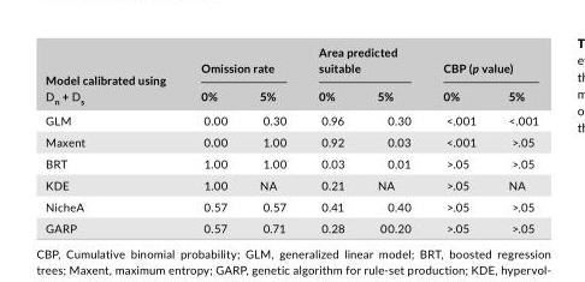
<table><thead><tr><td rowspan="2">Model calibrated using D<sub>n</sub> + D<sub>s</sub></td><td colspan="2">Omission rate</td><td colspan="2">Area predicted suitable</td><td colspan="2">CBP (p value)</td></tr><tr><td>0%</td><td>5%</td><td>0%</td><td>5%</td><td>0%</td><td>5%</td></tr></thead><tbody><tr><td>GLM</td><td>0.00</td><td>0.30</td><td>0.96</td><td>0.30</td><td>&lt;.001</td><td>&lt;.001</td></tr><tr><td>Maxent</td><td>0.00</td><td>1.00</td><td>0.92</td><td>0.03</td><td>&lt;.001</td><td>&gt;.05</td></tr><tr><td>BRT</td><td>1.00</td><td>1.00</td><td>0.03</td><td>0.01</td><td>&gt;.05</td><td>&gt;.05</td></tr><tr><td>KDE</td><td>1.00</td><td>NA</td><td>0.21</td><td>NA</td><td>&gt;.05</td><td>NA</td></tr><tr><td>NicheA</td><td>0.57</td><td>0.57</td><td>0.41</td><td>0.40</td><td>&gt;.05</td><td>&gt;.05</td></tr><tr><td>GARP</td><td>0.57</td><td>0.71</td><td>0.28</td><td>00.20</td><td>&gt;.05</td><td>&gt;.05</td></tr></tbody></table>